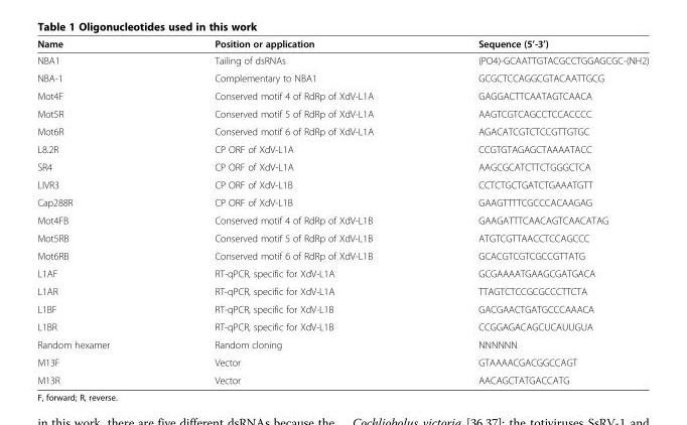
<table><thead><tr><td>Name</td><td>Position or application</td><td>Sequence (5’-3’)</td></tr></thead><tbody><tr><td>NBA1</td><td>Tailing of dsRNAs</td><td>(PO4)-GCAATTGTACGCCTGGAGCGC-(NH2)</td></tr><tr><td>NBA-1</td><td>Complementary to NBA1</td><td>GCGCTCCAGGCGTACAATTGCG</td></tr><tr><td>Mot4F</td><td>Conserved motif 4 of RdRp of XdV-L1A</td><td>GAGGACTTCAATAGTCAACA</td></tr><tr><td>Mot5R</td><td>Conserved motif 5 of RdRp of XdV-L1A</td><td>AAGTCGTCAGCCTCCACCCC</td></tr><tr><td>Mot6R</td><td>Conserved motif 6 of RdRp of XdV-L1A</td><td>AGACATCGTCTCCGTTGTGC</td></tr><tr><td>L8.2R</td><td>CP ORF of XdV-L1A</td><td>CCGTGTAGAGCTAAAATACC</td></tr><tr><td>SR4</td><td>CP ORF of XdV-L1A</td><td>AAGCGCATCTTCTGGGCTCA</td></tr><tr><td>LIVR3</td><td>CP ORF of XdV-L1B</td><td>CCTCTGCTGATCTGAAATGTT</td></tr><tr><td>Cap288R</td><td>CP ORF of XdV-L1B</td><td>GAAGTTTTCGCCCACAAGAG</td></tr><tr><td>Mot4FB</td><td>Conserved motif 4 of RdRp of XdV-L1B</td><td>GAAGATTTCAACAGTCAACATAG</td></tr><tr><td>Mot5RB</td><td>Conserved motif 5 of RdRp of XdV-L1B</td><td>ATGTCGTTAACCTCCAGCCC</td></tr><tr><td>Mot6RB</td><td>Conserved motif 6 of RdRp of XdV-L1B</td><td>GCACGTCGTCGCCGTTATG</td></tr><tr><td>L1AF</td><td>RT-qPCR, specific for XdV-L1A</td><td>GCGAAAATGAAGCGATGACA</td></tr><tr><td>L1AR</td><td>RT-qPCR, specific for XdV-L1A</td><td>TTAGTCTCCGCGCCCTTCTA</td></tr><tr><td>L1BF</td><td>RT-qPCR, specific for XdV-L1B</td><td>GACGAACTGATGCCCAAACA</td></tr><tr><td>L1BR</td><td>RT-qPCR, specific for XdV-L1B</td><td>CCGGAGACAGCUCAUUGUA</td></tr><tr><td>Random hexamer</td><td>Random cloning</td><td>NNNNNN</td></tr><tr><td>M13F</td><td>Vector</td><td>GTAAAACGACGGCCAGT</td></tr><tr><td>M13R</td><td>Vector</td><td>AACAGCTATGACCATG</td></tr></tbody></table>